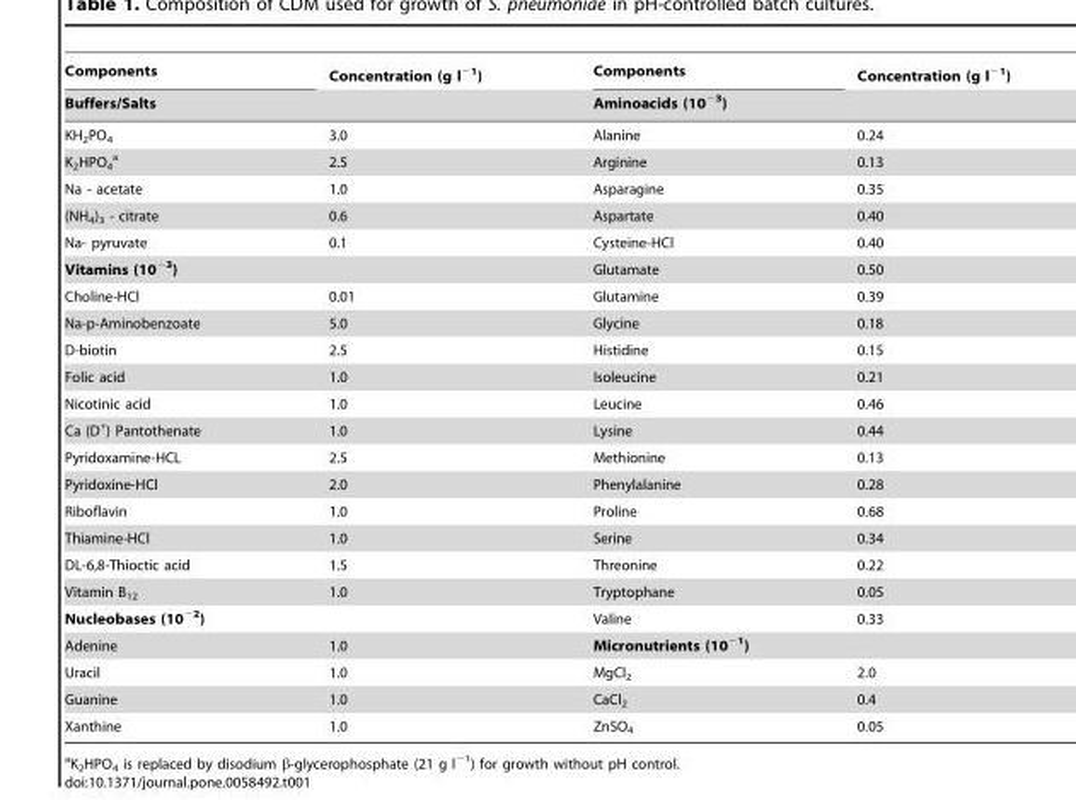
<table><thead><tr><td rowspan="2">Components Buffers/Salts</td><td rowspan="2">Concentration (g l<sup>−1</sup>)</td><td rowspan="2">Components Aminoacids (10<sup>−3</sup>)</td><td rowspan="2">Concentration (g l<sup>−1</sup>)</td></tr><tr></tr></thead><tbody><tr><td>KH<sub>2</sub>PO<sub>4</sub></td><td>3.0</td><td>Alanine</td><td>0.24</td></tr><tr><td>K<sub>2</sub>HPO<sub>4</sub> a</td><td>2.5</td><td>Arginine</td><td>0.13</td></tr><tr><td>Na - acetate</td><td>1.0</td><td>Asparagine</td><td>0.35</td></tr><tr><td>(NH<sub>4</sub>)<sub>3</sub> - citrate</td><td>0.6</td><td>Aspartate</td><td>0.40</td></tr><tr><td>Na- pyruvate</td><td>0.1</td><td>Cysteine-HCl</td><td>0.40</td></tr><tr><td colspan="2">Vitamins (10<sup>−3</sup>)</td><td>Glutamate</td><td>0.50</td></tr><tr><td>Choline-HCl</td><td>0.01</td><td>Glutamine</td><td>0.39</td></tr><tr><td>Na-p-Aminobenzoate</td><td>5.0</td><td>Glycine</td><td>0.18</td></tr><tr><td>D-biotin</td><td>2.5</td><td>Histidine</td><td>0.15</td></tr><tr><td>Folic acid</td><td>1.0</td><td>Isoleucine</td><td>0.21</td></tr><tr><td>Nicotinic acid</td><td>1.0</td><td>Leucine</td><td>0.46</td></tr><tr><td>Ca (D<sup>+</sup>) Pantothenate</td><td>1.0</td><td>Lysine</td><td>0.44</td></tr><tr><td>Pyridoxamine-HCL</td><td>2.5</td><td>Methionine</td><td>0.13</td></tr><tr><td>Pyridoxine-HCl</td><td>2.0</td><td>Phenylalanine</td><td>0.28</td></tr><tr><td>Riboflavin</td><td>1.0</td><td>Proline</td><td>0.68</td></tr><tr><td>Thiamine-HCl</td><td>1.0</td><td>Serine</td><td>0.34</td></tr><tr><td>DL-6,8-Thioctic acid</td><td>1.5</td><td>Threonine</td><td>0.22</td></tr><tr><td>Vitamin B<sub>12</sub></td><td>1.0</td><td>Tryptophane</td><td>0.05</td></tr><tr><td colspan="2">Nucleobases (10<sup>−2</sup>)</td><td>Valine</td><td>0.33</td></tr><tr><td>Adenine</td><td>1.0</td><td colspan="2">Micronutrients (10<sup>−1</sup>)</td></tr><tr><td>Uracil</td><td>1.0</td><td>MgCl<sub>2</sub></td><td>2.0</td></tr><tr><td>Guanine</td><td>1.0</td><td>CaCl<sub>2</sub></td><td>0.4</td></tr><tr><td>Xanthine</td><td>1.0</td><td>ZnSO<sub>4</sub></td><td>0.05</td></tr></tbody></table>